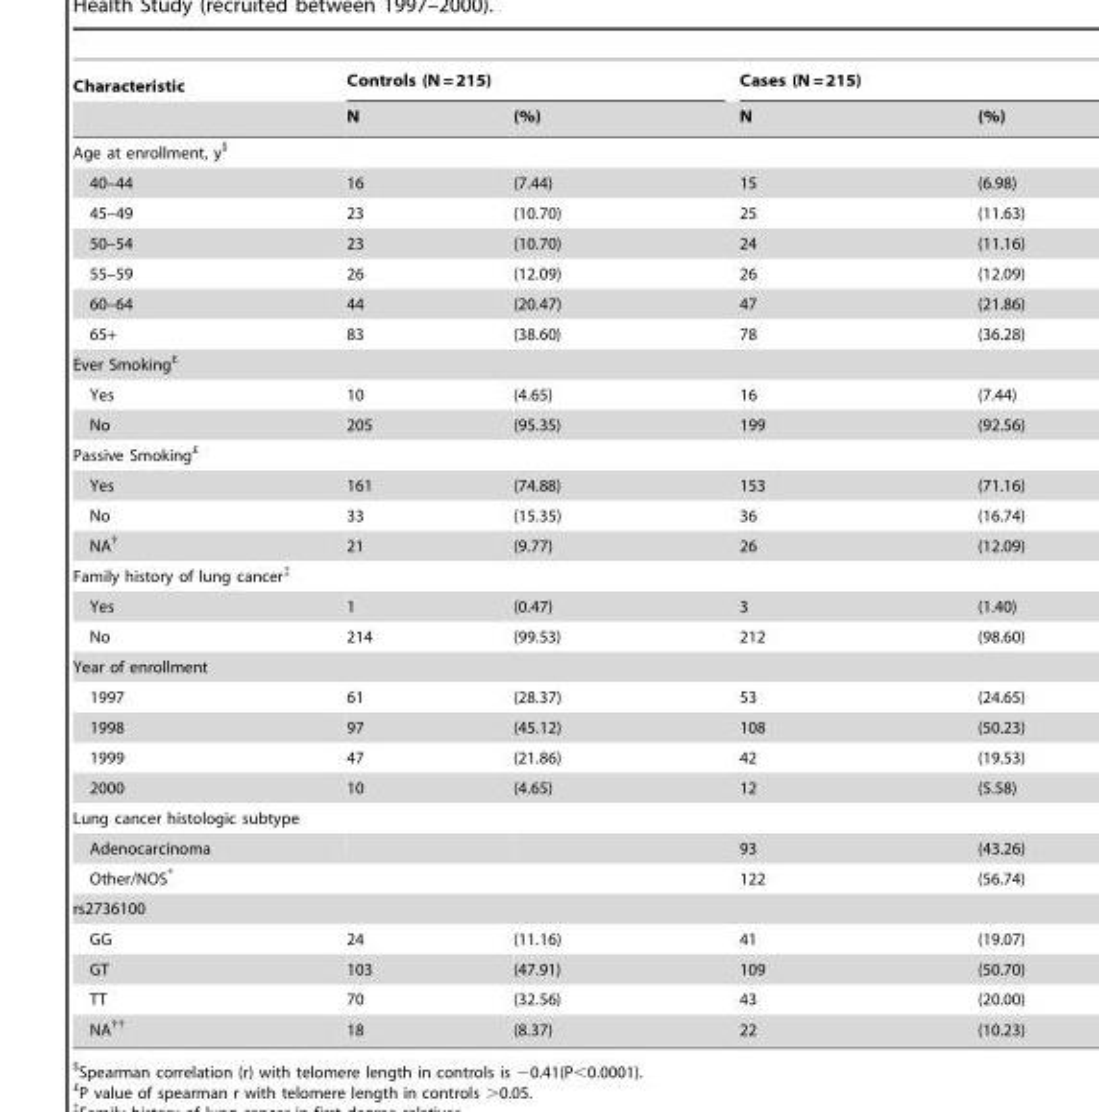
<table><thead><tr><td rowspan="2">Characteristic</td><td colspan="2">Controls (N = 215)</td><td colspan="2">Cases (N = 215)</td></tr><tr><td>N</td><td>(%)</td><td>N</td><td>(%)</td></tr></thead><tbody><tr><td colspan="5">Age at enrollment, y$</td></tr><tr><td>40–44</td><td>16</td><td>(7.44)</td><td>15</td><td>(6.98)</td></tr><tr><td>45–49</td><td>23</td><td>(10.70)</td><td>25</td><td>(11.63)</td></tr><tr><td>50–54</td><td>23</td><td>(10.70)</td><td>24</td><td>(11.16)</td></tr><tr><td>55–59</td><td>26</td><td>(12.09)</td><td>26</td><td>(12.09)</td></tr><tr><td>60–64</td><td>44</td><td>(20.47)</td><td>47</td><td>(21.86)</td></tr><tr><td>65+</td><td>83</td><td>(38.60)</td><td>78</td><td>(36.28)</td></tr><tr><td colspan="5">Ever Smoking£</td></tr><tr><td>Yes</td><td>10</td><td>(4.65)</td><td>16</td><td>(7.44)</td></tr><tr><td>No</td><td>205</td><td>(95.35)</td><td>199</td><td>(92.56)</td></tr><tr><td colspan="5">Passive Smoking£</td></tr><tr><td>Yes</td><td>161</td><td>(74.88)</td><td>153</td><td>(71.16)</td></tr><tr><td>No</td><td>33</td><td>(15.35)</td><td>36</td><td>(16.74)</td></tr><tr><td>NA†</td><td>21</td><td>(9.77)</td><td>26</td><td>(12.09)</td></tr><tr><td colspan="5">Family history of lung cancer‡</td></tr><tr><td>Yes</td><td>1</td><td>(0.47)</td><td>3</td><td>(1.40)</td></tr><tr><td>No</td><td>214</td><td>(99.53)</td><td>212</td><td>(98.60)</td></tr><tr><td colspan="5">Year of enrollment</td></tr><tr><td>1997</td><td>61</td><td>(28.37)</td><td>53</td><td>(24.65)</td></tr><tr><td>1998</td><td>97</td><td>(45.12)</td><td>108</td><td>(50.23)</td></tr><tr><td>1999</td><td>47</td><td>(21.86)</td><td>42</td><td>(19.53)</td></tr><tr><td>2000</td><td>10</td><td>(4.65)</td><td>12</td><td>(5.58)</td></tr><tr><td colspan="5">Lung cancer histologic subtype</td></tr><tr><td>Adenocarcinoma</td><td></td><td></td><td>93</td><td>(43.26)</td></tr><tr><td>Other/NOS*</td><td></td><td></td><td>122</td><td>(56.74)</td></tr><tr><td colspan="5">rs2736100</td></tr><tr><td>GG</td><td>24</td><td>(11.16)</td><td>41</td><td>(19.07)</td></tr><tr><td>GT</td><td>103</td><td>(47.91)</td><td>109</td><td>(50.70)</td></tr><tr><td>TT</td><td>70</td><td>(32.56)</td><td>43</td><td>(20.00)</td></tr><tr><td>NA††</td><td>18</td><td>(8.37)</td><td>22</td><td>(10.23)</td></tr></tbody></table>